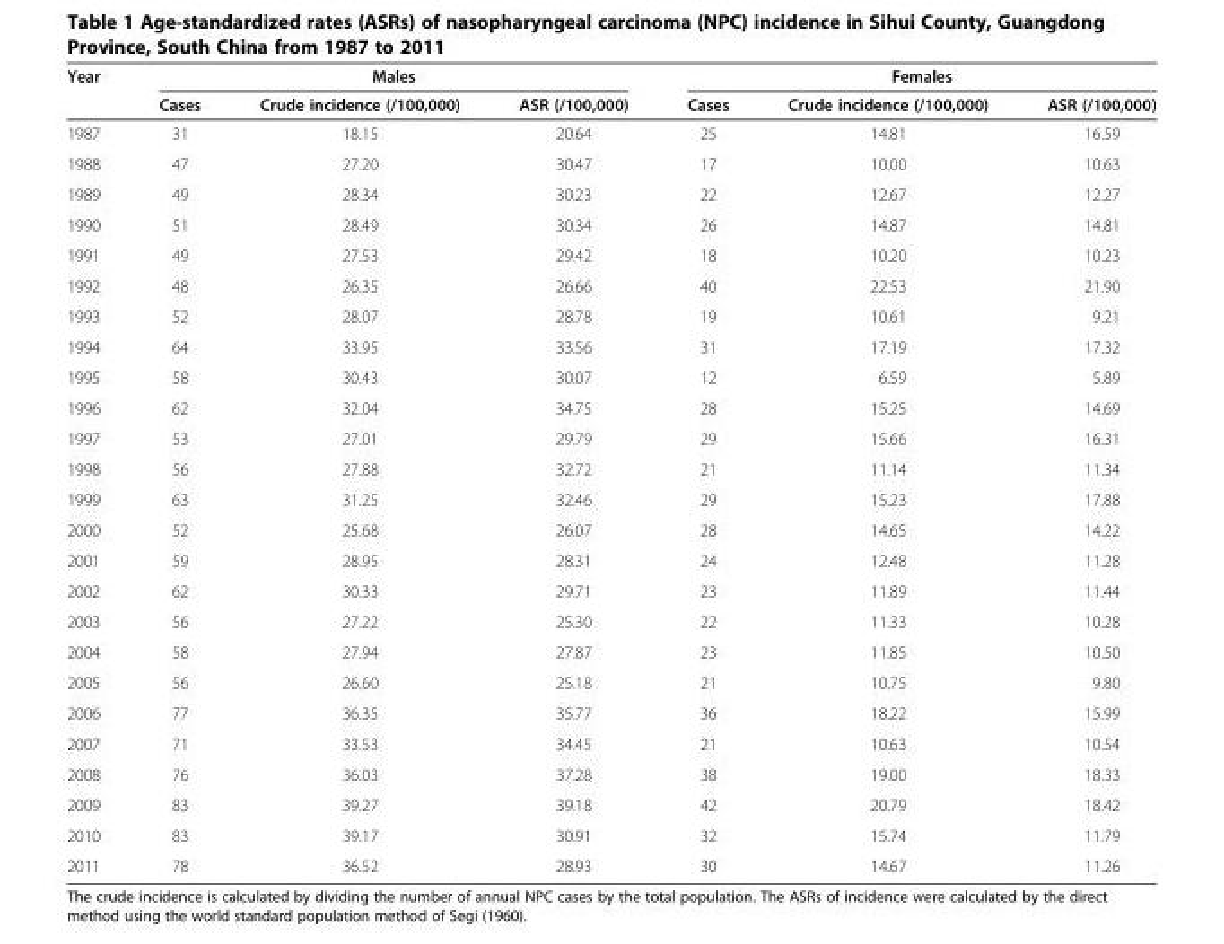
<table><thead><tr><td rowspan="2">Year</td><td colspan="3">Males</td><td colspan="3">Females</td></tr><tr><td>Cases</td><td>Crude incidence (/100,000)</td><td>ASR (/100,000)</td><td>Cases</td><td>Crude incidence (/100,000)</td><td>ASR (/100,000)</td></tr></thead><tbody><tr><td>1987</td><td>31</td><td>18.15</td><td>20.64</td><td>25</td><td>14.81</td><td>16.59</td></tr><tr><td>1988</td><td>47</td><td>27.20</td><td>30.47</td><td>17</td><td>10.00</td><td>10.63</td></tr><tr><td>1989</td><td>49</td><td>28.34</td><td>30.23</td><td>22</td><td>12.67</td><td>12.27</td></tr><tr><td>1990</td><td>51</td><td>28.49</td><td>30.34</td><td>26</td><td>14.87</td><td>14.81</td></tr><tr><td>1991</td><td>49</td><td>27.53</td><td>29.42</td><td>18</td><td>10.20</td><td>10.23</td></tr><tr><td>1992</td><td>48</td><td>26.35</td><td>26.66</td><td>40</td><td>22.53</td><td>21.90</td></tr><tr><td>1993</td><td>52</td><td>28.07</td><td>28.78</td><td>19</td><td>10.61</td><td>9.21</td></tr><tr><td>1994</td><td>64</td><td>33.95</td><td>33.56</td><td>31</td><td>17.19</td><td>17.32</td></tr><tr><td>1995</td><td>58</td><td>30.43</td><td>30.07</td><td>12</td><td>6.59</td><td>5.89</td></tr><tr><td>1996</td><td>62</td><td>32.04</td><td>34.75</td><td>28</td><td>15.25</td><td>14.69</td></tr><tr><td>1997</td><td>53</td><td>27.01</td><td>29.79</td><td>29</td><td>15.66</td><td>16.31</td></tr><tr><td>1998</td><td>56</td><td>27.88</td><td>32.72</td><td>21</td><td>11.14</td><td>11.34</td></tr><tr><td>1999</td><td>63</td><td>31.25</td><td>32.46</td><td>29</td><td>15.23</td><td>17.88</td></tr><tr><td>2000</td><td>52</td><td>25.68</td><td>26.07</td><td>28</td><td>14.65</td><td>14.22</td></tr><tr><td>2001</td><td>59</td><td>28.95</td><td>28.31</td><td>24</td><td>12.48</td><td>11.28</td></tr><tr><td>2002</td><td>62</td><td>30.33</td><td>29.71</td><td>23</td><td>11.89</td><td>11.44</td></tr><tr><td>2003</td><td>56</td><td>27.22</td><td>25.30</td><td>22</td><td>11.33</td><td>10.28</td></tr><tr><td>2004</td><td>58</td><td>27.94</td><td>27.87</td><td>23</td><td>11.85</td><td>10.50</td></tr><tr><td>2005</td><td>56</td><td>26.60</td><td>25.18</td><td>21</td><td>10.75</td><td>9.80</td></tr><tr><td>2006</td><td>77</td><td>36.35</td><td>35.77</td><td>36</td><td>18.22</td><td>15.99</td></tr><tr><td>2007</td><td>71</td><td>33.53</td><td>34.45</td><td>21</td><td>10.63</td><td>10.54</td></tr><tr><td>2008</td><td>76</td><td>36.03</td><td>37.28</td><td>38</td><td>19.00</td><td>18.33</td></tr><tr><td>2009</td><td>83</td><td>39.27</td><td>39.18</td><td>42</td><td>20.79</td><td>18.42</td></tr><tr><td>2010</td><td>83</td><td>39.17</td><td>30.91</td><td>32</td><td>15.74</td><td>11.79</td></tr><tr><td>2011</td><td>78</td><td>36.52</td><td>28.93</td><td>30</td><td>14.67</td><td>11.26</td></tr></tbody></table>